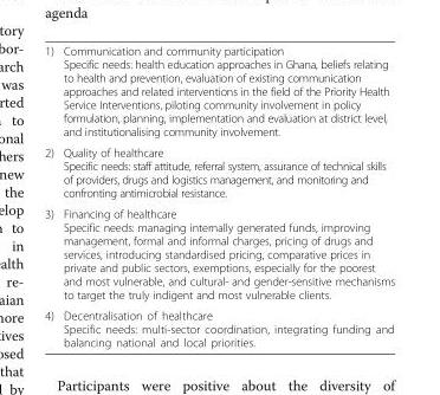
<table><tbody><tr><td>1)</td><td>Communication and community participation Specific needs: health education approaches in Ghana, beliefs relating to health and prevention, evaluation of existing communication approaches and related interventions in the field of the Priority Health Service Interventions, piloting community involvement in policy formulation, planning, implementation and evaluation at district level, and institutionalising community involvement.</td></tr><tr><td>2)</td><td>Quality of healthcare Specific needs: staff attitude, referral system, assurance of technical skills of providers, drugs and logistics management, and monitoring and confronting antimicrobial resistance.</td></tr><tr><td>3)</td><td>Financing of healthcare Specific needs: managing internally generated funds, improving management, formal and informal charges, pricing of drugs and services, introducing standardised pricing, comparative prices in private and public sectors, exemptions, especially for the poorest and most vulnerable, and cultural- and gender-sensitive mechanisms to target the truly indigent and most vulnerable clients.</td></tr><tr><td>4)</td><td>Decentralisation of healthcare Specific needs: multi-sector coordination, integrating funding and balancing national and local priorities.</td></tr></tbody></table>